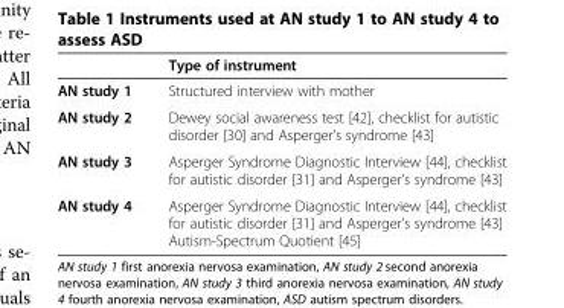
<table><thead><tr><td></td><td>Type of instrument</td></tr></thead><tbody><tr><td>AN study 1</td><td>Structured interview with mother</td></tr><tr><td>AN study 2</td><td>Dewey social awareness test [42], checklist for autistic disorder [30] and Asperger’s syndrome [43]</td></tr><tr><td>AN study 3</td><td>Asperger Syndrome Diagnostic Interview [44], checklist for autistic disorder [31] and Asperger’s syndrome [43]</td></tr><tr><td>AN study 4</td><td>Asperger Syndrome Diagnostic Interview [44], checklist for autistic disorder [31] and Asperger’s syndrome [43] Autism-Spectrum Quotient [45]</td></tr></tbody></table>